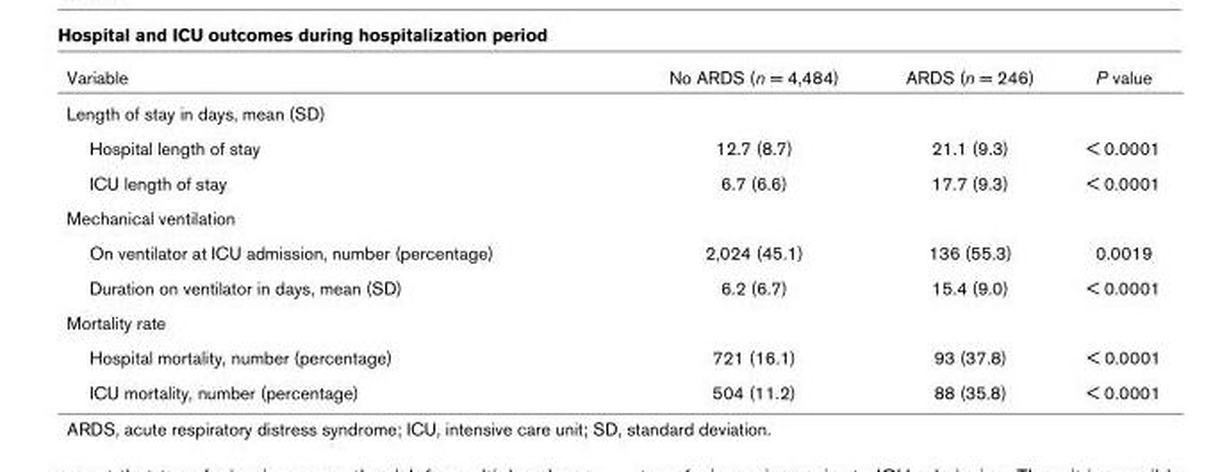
<table><thead><tr><td>Variable</td><td>No ARDS (n = 4,484)</td><td>ARDS (n = 246)</td><td>P value</td></tr></thead><tbody><tr><td colspan="4">Length of stay in days, mean (SD)</td></tr><tr><td>Hospital length of stay</td><td>12.7 (8.7)</td><td>21.1 (9.3)</td><td>&lt; 0.0001</td></tr><tr><td>ICU length of stay</td><td>6.7 (6.6)</td><td>17.7 (9.3)</td><td>&lt; 0.0001</td></tr><tr><td colspan="4">Mechanical ventilation</td></tr><tr><td>On ventilator at ICU admission, number (percentage)</td><td>2,024 (45.1)</td><td>136 (55.3)</td><td>0.0019</td></tr><tr><td>Duration on ventilator in days, mean (SD)</td><td>6.2 (6.7)</td><td>15.4 (9.0)</td><td>&lt; 0.0001</td></tr><tr><td colspan="4">Mortality rate</td></tr><tr><td>Hospital mortality, number (percentage)</td><td>721 (16.1)</td><td>93 (37.8)</td><td>&lt; 0.0001</td></tr><tr><td>ICU mortality, number (percentage)</td><td>504 (11.2)</td><td>88 (35.8)</td><td>&lt; 0.0001</td></tr></tbody></table>